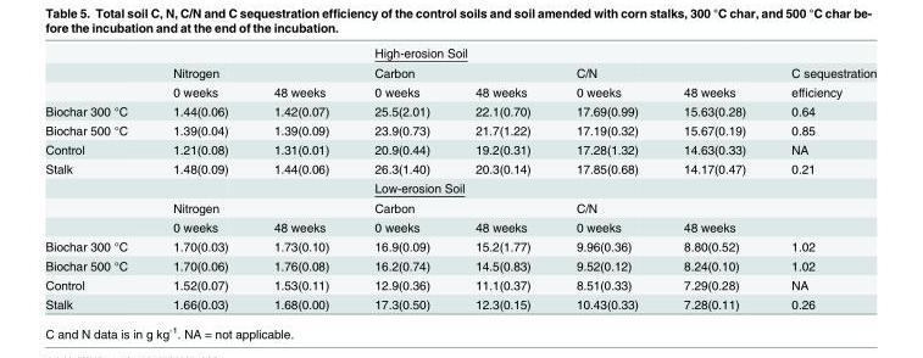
<table><thead><tr><td rowspan="2"></td><td rowspan="2">Nitrogen</td><td rowspan="2"></td><td colspan="2">High-erosion Soil</td><td rowspan="2">C/N</td><td rowspan="2"></td><td rowspan="2">C sequestration</td></tr><tr><td>Carbon</td><td></td></tr></thead><tbody><tr><td></td><td>0 weeks</td><td>48 weeks</td><td>0 weeks</td><td>48 weeks</td><td>0 weeks</td><td>48 weeks</td><td>efficiency</td></tr><tr><td>Biochar 300 °C</td><td>1.44(0.06)</td><td>1.42(0.07)</td><td>25.5(2.01)</td><td>22.1(0.70)</td><td>17.69(0.99)</td><td>15.63(0.28)</td><td>0.64</td></tr><tr><td>Biochar 500 °C</td><td>1.39(0.04)</td><td>1.39(0.09)</td><td>23.9(0.73)</td><td>21.7(1.22)</td><td>17.19(0.32)</td><td>15.67(0.19)</td><td>0.85</td></tr><tr><td>Control</td><td>1.21(0.08)</td><td>1.31(0.01)</td><td>20.9(0.44)</td><td>19.2(0.31)</td><td>17.28(1.32)</td><td>14.63(0.33)</td><td>NA</td></tr><tr><td rowspan="4">Stalk</td><td>1.48(0.09)</td><td>1.44(0.06)</td><td>26.3(1.40)</td><td>20.3(0.14)</td><td>17.85(0.68)</td><td>14.17(0.47)</td><td>0.21</td></tr><tr><td></td><td></td><td colspan="2">Low-erosion Soil</td><td></td><td></td><td></td></tr><tr><td>Nitrogen</td><td></td><td>Carbon</td><td></td><td>C/N</td><td></td><td></td></tr><tr><td>0 weeks</td><td>48 weeks</td><td>0 weeks</td><td>48 weeks</td><td>0 weeks</td><td>48 weeks</td><td></td></tr><tr><td>Biochar 300 °C</td><td>1.70(0.03)</td><td>1.73(0.10)</td><td>16.9(0.09)</td><td>15.2(1.77)</td><td>9.96(0.36)</td><td>8.80(0.52)</td><td>1.02</td></tr><tr><td>Biochar 500 °C</td><td>1.70(0.06)</td><td>1.76(0.08)</td><td>16.2(0.74)</td><td>14.5(0.83)</td><td>9.52(0.12)</td><td>8.24(0.10)</td><td>1.02</td></tr><tr><td>Control</td><td>1.52(0.07)</td><td>1.53(0.11)</td><td>12.9(0.36)</td><td>11.1(0.37)</td><td>8.51(0.33)</td><td>7.29(0.28)</td><td>NA</td></tr><tr><td>Stalk</td><td>1.66(0.03)</td><td>1.68(0.00)</td><td>17.3(0.50)</td><td>12.3(0.15)</td><td>10.43(0.33)</td><td>7.28(0.11)</td><td>0.26</td></tr></tbody></table>